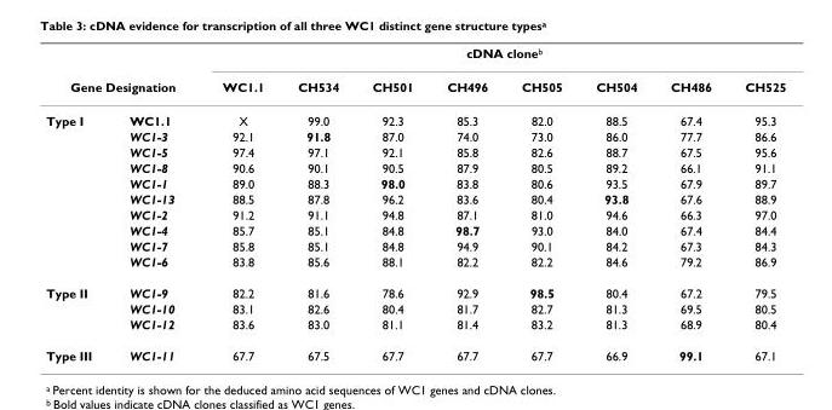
<table><thead><tr><td></td><td></td><td colspan="8">cDNA clone<sup>b</sup></td></tr><tr><td colspan="2">Gene Designation</td><td>WC1.1</td><td>CH534</td><td>CH501</td><td>CH496</td><td>CH505</td><td>CH504</td><td>CH486</td><td>CH525</td></tr></thead><tbody><tr><td rowspan="10">Type I</td><td>WC1.1</td><td>X</td><td>99.0</td><td>92.3</td><td>85.3</td><td>82.0</td><td>88.5</td><td>67.4</td><td>95.3</td></tr><tr><td>WC1-3</td><td>92.1</td><td>91.8</td><td>87.0</td><td>74.0</td><td>73.0</td><td>86.0</td><td>77.7</td><td>86.6</td></tr><tr><td>WC1-5</td><td>97.4</td><td>97.1</td><td>92.1</td><td>85.8</td><td>82.6</td><td>88.7</td><td>67.5</td><td>95.6</td></tr><tr><td>WC1-8</td><td>90.6</td><td>90.1</td><td>90.5</td><td>87.9</td><td>80.5</td><td>89.2</td><td>66.1</td><td>91.1</td></tr><tr><td>WC1-1</td><td>89.0</td><td>88.3</td><td>98.0</td><td>83.8</td><td>80.6</td><td>93.5</td><td>67.9</td><td>89.7</td></tr><tr><td>WC1-13</td><td>88.5</td><td>87.8</td><td>96.2</td><td>83.6</td><td>80.4</td><td>93.8</td><td>67.6</td><td>88.9</td></tr><tr><td>WC1-2</td><td>91.2</td><td>91.1</td><td>94.8</td><td>87.1</td><td>81.0</td><td>94.6</td><td>66.3</td><td>97.0</td></tr><tr><td>WC1-4</td><td>85.7</td><td>85.1</td><td>84.8</td><td>98.7</td><td>93.0</td><td>84.0</td><td>67.4</td><td>84.4</td></tr><tr><td>WC1-7</td><td>85.8</td><td>85.1</td><td>84.8</td><td>94.9</td><td>90.1</td><td>84.2</td><td>67.3</td><td>84.3</td></tr><tr><td>WC1-6</td><td>83.8</td><td>85.6</td><td>88.1</td><td>82.2</td><td>82.2</td><td>84.6</td><td>79.2</td><td>86.9</td></tr><tr><td rowspan="3">Type II</td><td>WC1-9</td><td>82.2</td><td>81.6</td><td>78.6</td><td>92.9</td><td>98.5</td><td>80.4</td><td>67.2</td><td>79.5</td></tr><tr><td>WC1-10</td><td>83.1</td><td>82.6</td><td>80.4</td><td>81.7</td><td>82.7</td><td>81.3</td><td>69.5</td><td>80.5</td></tr><tr><td>WC1-12</td><td>83.6</td><td>83.0</td><td>81.1</td><td>81.4</td><td>83.2</td><td>81.3</td><td>68.9</td><td>80.4</td></tr><tr><td>Type III</td><td>WC1-11</td><td>67.7</td><td>67.5</td><td>67.7</td><td>67.7</td><td>67.7</td><td>66.9</td><td>99.1</td><td>67.1</td></tr></tbody></table>